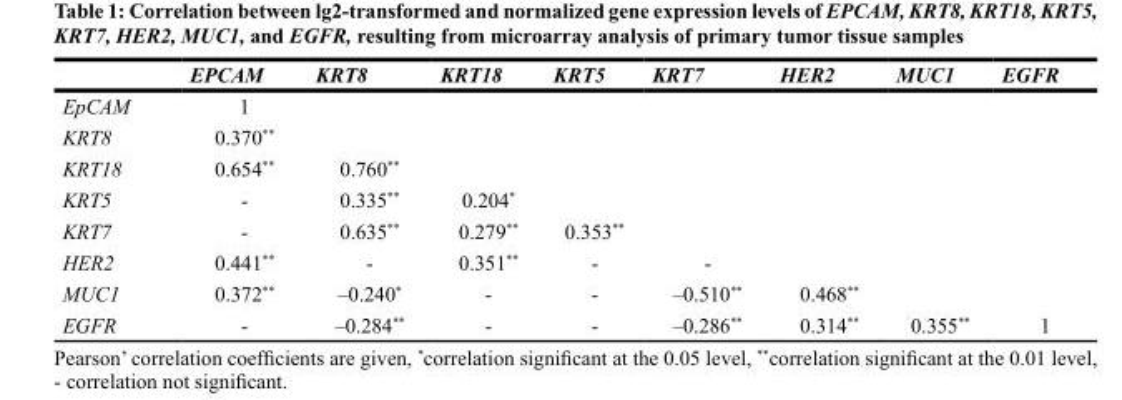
<table><thead><tr><td></td><td>EPCAM</td><td>KRT8</td><td>KRT18</td><td>KRT5</td><td>KRT7</td><td>HER2</td><td>MUC1</td><td>EGFR</td></tr></thead><tbody><tr><td>EpCAM</td><td>1</td><td></td><td></td><td></td><td></td><td></td><td></td><td></td></tr><tr><td>KRT8</td><td>0.370**</td><td></td><td></td><td></td><td></td><td></td><td></td><td></td></tr><tr><td>KRT18</td><td>0.654**</td><td>0.760**</td><td></td><td></td><td></td><td></td><td></td><td></td></tr><tr><td>KRT5</td><td>-</td><td>0.335**</td><td>0.204*</td><td></td><td></td><td></td><td></td><td></td></tr><tr><td>KRT7</td><td>-</td><td>0.635**</td><td>0.279**</td><td>0.353**</td><td></td><td></td><td></td><td></td></tr><tr><td>HER2</td><td>0.441**</td><td>-</td><td>0.351**</td><td>-</td><td>-</td><td></td><td></td><td></td></tr><tr><td>MUC1</td><td>0.372**</td><td>–0.240*</td><td>-</td><td>-</td><td>–0.510**</td><td>0.468**</td><td></td><td></td></tr><tr><td>EGFR</td><td>-</td><td>–0.284**</td><td>-</td><td>-</td><td>–0.286**</td><td>0.314**</td><td>0.355**</td><td>1</td></tr></tbody></table>